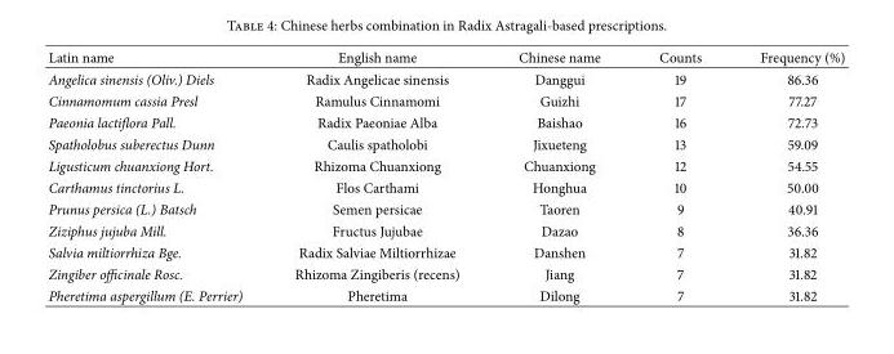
<table><thead><tr><td>Latin name</td><td>English name</td><td>Chinese name</td><td>Counts</td><td>Frequency (%)</td></tr></thead><tbody><tr><td>Angelica sinensis (Oliv.) Diels</td><td>Radix Angelicae sinensis</td><td>Danggui</td><td>19</td><td>86.36</td></tr><tr><td>Cinnamomum cassia Presl</td><td>Ramulus Cinnamomi</td><td>Guizhi</td><td>17</td><td>77.27</td></tr><tr><td>Paeonia lactiflora Pall.</td><td>Radix Paeoniae Alba</td><td>Baishao</td><td>16</td><td>72.73</td></tr><tr><td>Spatholobus suberectus Dunn</td><td>Caulis spatholobi</td><td>Jixueteng</td><td>13</td><td>59.09</td></tr><tr><td>Ligusticum chuanxiong Hort.</td><td>Rhizoma Chuanxiong</td><td>Chuanxiong</td><td>12</td><td>54.55</td></tr><tr><td>Carthamus tinctorius L.</td><td>Flos Carthami</td><td>Honghua</td><td>10</td><td>50.00</td></tr><tr><td>Prunus persica (L.) Batsch</td><td>Semen persicae</td><td>Taoren</td><td>9</td><td>40.91</td></tr><tr><td>Ziziphus jujuba Mill.</td><td>Fructus Jujubae</td><td>Dazao</td><td>8</td><td>36.36</td></tr><tr><td>Salvia miltiorrhiza Bge.</td><td>Radix Salviae Miltiorrhizae</td><td>Danshen</td><td>7</td><td>31.82</td></tr><tr><td>Zingiber officinale Rosc.</td><td>Rhizoma Zingiberis (recens)</td><td>Jiang</td><td>7</td><td>31.82</td></tr><tr><td>Pheretima aspergillum (E. Perrier)</td><td>Pheretima</td><td>Dilong</td><td>7</td><td>31.82</td></tr></tbody></table>